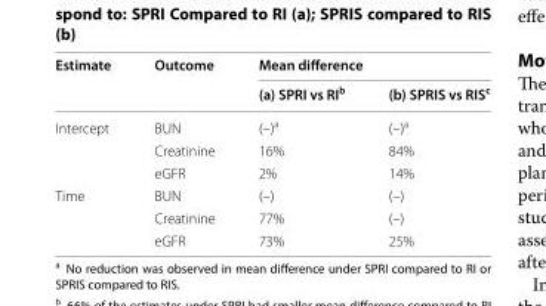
<table><thead><tr><td rowspan="2">Estimate</td><td rowspan="2">Outcome</td><td colspan="2">Mean difference</td></tr><tr><td>(a) SPRI vs RI<sup>b</sup></td><td>(b) SPRIS vs RIS<sup>c</sup></td></tr></thead><tbody><tr><td rowspan="3">Intercept</td><td>BUN</td><td>(–)<sup>a</sup></td><td>(–)<sup>a</sup></td></tr><tr><td>Creatinine</td><td>16%</td><td>84%</td></tr><tr><td>eGFR</td><td>2%</td><td>14%</td></tr><tr><td rowspan="3">Time</td><td>BUN</td><td>(–)</td><td>(–)</td></tr><tr><td>Creatinine</td><td>77%</td><td>(–)</td></tr><tr><td>eGFR</td><td>73%</td><td>25%</td></tr></tbody></table>